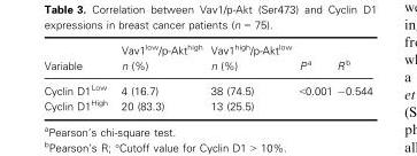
<table><thead><tr><td>Variable</td><td>Vav1<sup>low</sup>/p-Akt<sup>high</sup> n (%)</td><td>Vav1<sup>high</sup>/p-Akt<sup>low</sup> n (%)</td><td>P a</td><td>R b</td></tr></thead><tbody><tr><td>Cyclin D1<sup>Low</sup></td><td>4 (16.7)</td><td>38 (74.5)</td><td rowspan="2">&lt;0.001</td><td rowspan="2">−0.544</td></tr><tr><td>Cyclin D1<sup>High</sup></td><td>20 (83.3)</td><td>13 (25.5)</td></tr></tbody></table>